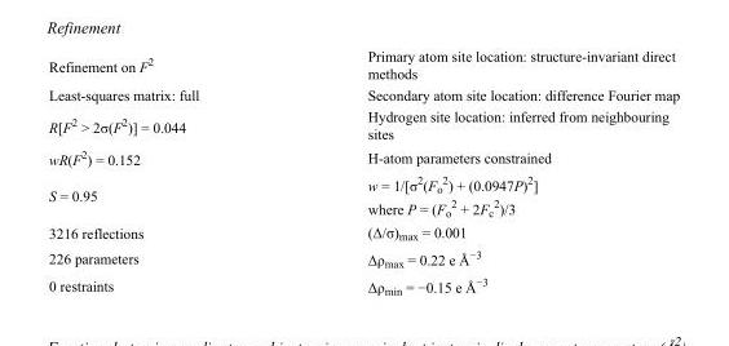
<table><tbody><tr><td>Refinement on F<sup>2</sup></td><td>Primary atom site location: structure-invariant direct methods</td></tr><tr><td>Least-squares matrix: full</td><td>Secondary atom site location: difference Fourier map</td></tr><tr><td>R[F<sup>2</sup> &gt; 2σ(F<sup>2</sup>)] = 0.044</td><td>Hydrogen site location: inferred from neighbouring sites</td></tr><tr><td>wR(F<sup>2</sup>) = 0.152</td><td>H-atom parameters constrained</td></tr><tr><td>S = 0.95</td><td>w = 1/[σ<sup>2</sup>(F<sub>o</sub> <sup>2</sup>) + (0.0947P)<sup>2</sup>] where P = (F<sub>o</sub> <sup>2</sup> + 2F<sub>c</sub> <sup>2</sup>)/3</td></tr><tr><td>3216 reflections</td><td>(Δ/σ)<sub>max</sub> = 0.001</td></tr><tr><td>226 parameters</td><td>Δρ<sub>max</sub> = 0.22 e Å<sup>−3</sup></td></tr><tr><td>0 restraints</td><td>Δρ<sub>min</sub> = −0.15 e Å<sup>−3</sup></td></tr></tbody></table>